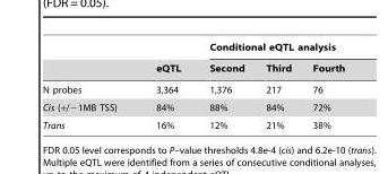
<table><thead><tr><td rowspan="2"></td><td rowspan="2">eQTL</td><td colspan="3">Conditional eQTL analysis</td></tr><tr><td>Second</td><td>Third</td><td>Fourth</td></tr></thead><tbody><tr><td>N probes</td><td>3,364</td><td>1,376</td><td>217</td><td>76</td></tr><tr><td>Cis (+/−1MB TSS)</td><td>84%</td><td>88%</td><td>84%</td><td>72%</td></tr><tr><td>Trans</td><td>16%</td><td>12%</td><td>21%</td><td>38%</td></tr></tbody></table>